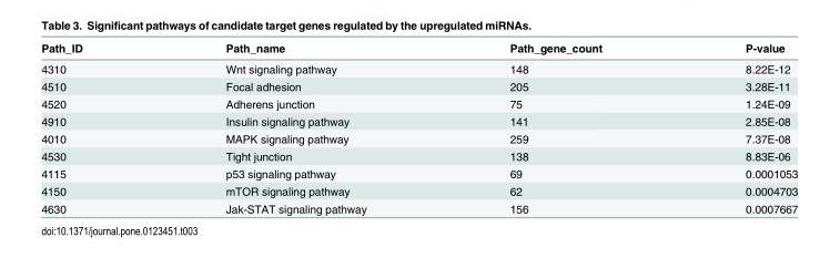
<table><thead><tr><td>Path_ID</td><td>Path_name</td><td>Path_gene_count</td><td>P-value</td></tr></thead><tbody><tr><td>4310</td><td>Wnt signaling pathway</td><td>148</td><td>8.22E-12</td></tr><tr><td>4510</td><td>Focal adhesion</td><td>205</td><td>3.28E-11</td></tr><tr><td>4520</td><td>Adherens junction</td><td>75</td><td>1.24E-09</td></tr><tr><td>4910</td><td>Insulin signaling pathway</td><td>141</td><td>2.85E-08</td></tr><tr><td>4010</td><td>MAPK signaling pathway</td><td>259</td><td>7.37E-08</td></tr><tr><td>4530</td><td>Tight junction</td><td>138</td><td>8.83E-06</td></tr><tr><td>4115</td><td>p53 signaling pathway</td><td>69</td><td>0.0001053</td></tr><tr><td>4150</td><td>mTOR signaling pathway</td><td>62</td><td>0.0004703</td></tr><tr><td>4630</td><td>Jak-STAT signaling pathway</td><td>156</td><td>0.0007667</td></tr></tbody></table>